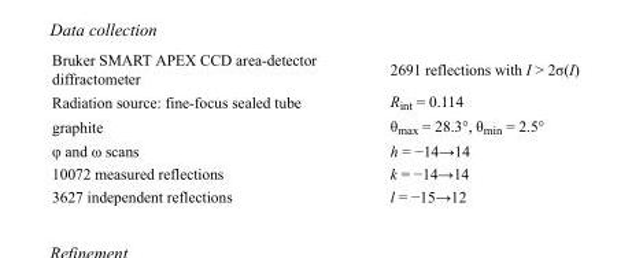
<table><tbody><tr><td>Bruker SMART APEX CCD area-detector diffractometer</td><td>2691 reflections with I &gt; 2σ(I)</td></tr><tr><td>Radiation source: fine-focus sealed tube</td><td>R<sub>int</sub> = 0.114</td></tr><tr><td>graphite</td><td>θ<sub>max</sub> = 28.3°, θ<sub>min</sub> = 2.5°</td></tr><tr><td>φ and ω scans</td><td>h = −14→14</td></tr><tr><td>10072 measured reflections</td><td>k = −14→14</td></tr><tr><td>3627 independent reflections</td><td>l = −15→12</td></tr></tbody></table>